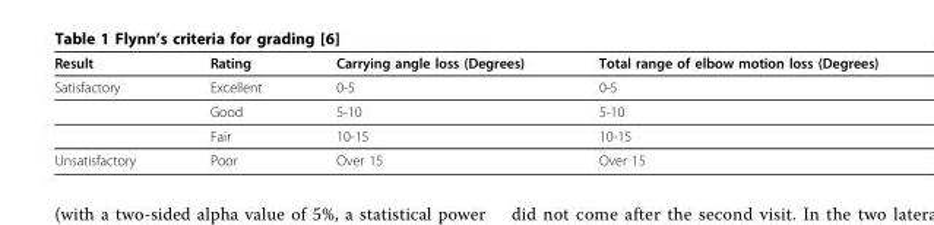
<table><thead><tr><td>Result</td><td>Rating</td><td>Carrying angle loss (Degrees)</td><td>Total range of elbow motion loss (Degrees)</td></tr></thead><tbody><tr><td rowspan="3">Satisfactory</td><td>Excellent</td><td>0-5</td><td>0-5</td></tr><tr><td>Good</td><td>5-10</td><td>5-10</td></tr><tr><td>Fair</td><td>10-15</td><td>10-15</td></tr><tr><td>Unsatisfactory</td><td>Poor</td><td>Over 15</td><td>Over 15</td></tr></tbody></table>